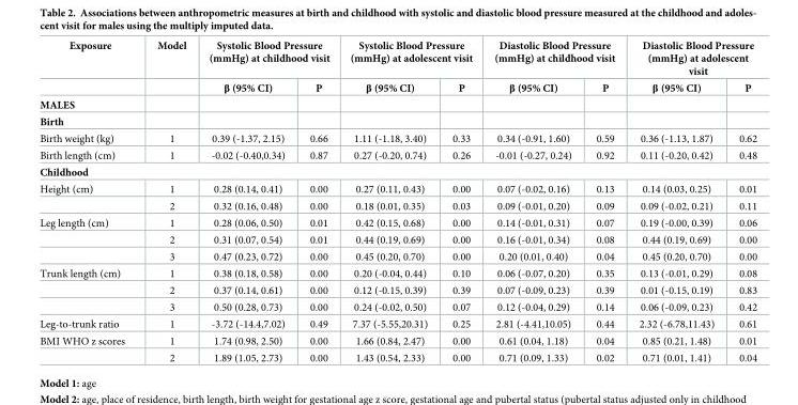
<table><thead><tr><td rowspan="2">Exposure</td><td rowspan="2">Model</td><td colspan="2">Systolic Blood Pressure (mmHg) at childhood visit</td><td colspan="2">Systolic Blood Pressure (mmHg) at adolescent visit</td><td colspan="2">Diastolic Blood Pressure (mmHg) at childhood visit</td><td colspan="2">Diastolic Blood Pressure (mmHg) at adolescent visit</td></tr><tr><td>β (95% CI)</td><td>P</td><td>β (95% CI)</td><td>P</td><td>β (95% CI)</td><td>P</td><td>β (95% CI)</td><td>P</td></tr></thead><tbody><tr><td colspan="10">MALES</td></tr><tr><td colspan="10">Birth</td></tr><tr><td>Birth weight (kg)</td><td>1</td><td>0.39 (-1.37, 2.15)</td><td>0.66</td><td>1.11 (-1.18, 3.40)</td><td>0.33</td><td>0.34 (-0.91, 1.60)</td><td>0.59</td><td>0.36 (-1.13, 1.87)</td><td>0.62</td></tr><tr><td>Birth length (cm)</td><td>1</td><td>-0.02 (-0.40,0.34)</td><td>0.87</td><td>0.27 (-0.20, 0.74)</td><td>0.26</td><td>-0.01 (-0.27, 0.24)</td><td>0.92</td><td>0.11 (-0.20, 0.42)</td><td>0.48</td></tr><tr><td colspan="10">Childhood</td></tr><tr><td rowspan="2">Height (cm)</td><td>1</td><td>0.28 (0.14, 0.41)</td><td>0.00</td><td>0.27 (0.11, 0.43)</td><td>0.00</td><td>0.07 (-0.02, 0.16)</td><td>0.13</td><td>0.14 (0.03, 0.25)</td><td>0.01</td></tr><tr><td>2</td><td>0.32 (0.16, 0.48)</td><td>0.00</td><td>0.18 (0.01, 0.35)</td><td>0.03</td><td>0.09 (-0.01, 0.20)</td><td>0.09</td><td>0.09 (-0.02, 0.21)</td><td>0.11</td></tr><tr><td rowspan="3">Leg length (cm)</td><td>1</td><td>0.28 (0.06, 0.50)</td><td>0.01</td><td>0.42 (0.15, 0.68)</td><td>0.00</td><td>0.14 (-0.01, 0.31)</td><td>0.07</td><td>0.19 (-0.00, 0.39)</td><td>0.06</td></tr><tr><td>2</td><td>0.31 (0.07, 0.54)</td><td>0.01</td><td>0.44 (0.19, 0.69)</td><td>0.00</td><td>0.16 (-0.01, 0.34)</td><td>0.08</td><td>0.44 (0.19, 0.69)</td><td>0.00</td></tr><tr><td>3</td><td>0.47 (0.23, 0.72)</td><td>0.00</td><td>0.45 (0.20, 0.70)</td><td>0.00</td><td>0.20 (0.01, 0.40)</td><td>0.04</td><td>0.45 (0.20, 0.70)</td><td>0.00</td></tr><tr><td rowspan="3">Trunk length (cm)</td><td>1</td><td>0.38 (0.18, 0.58)</td><td>0.00</td><td>0.20 (-0.04, 0.44)</td><td>0.10</td><td>0.06 (-0.07, 0.20)</td><td>0.35</td><td>0.13 (-0.01, 0.29)</td><td>0.08</td></tr><tr><td>2</td><td>0.37 (0.14, 0.61)</td><td>0.00</td><td>0.12 (-0.15, 0.39)</td><td>0.39</td><td>0.07 (-0.09, 0.23)</td><td>0.39</td><td>0.01 (-0.15, 0.19)</td><td>0.83</td></tr><tr><td>3</td><td>0.50 (0.28, 0.73)</td><td>0.00</td><td>0.24 (-0.02, 0.50)</td><td>0.07</td><td>0.12 (-0.04, 0.29)</td><td>0.14</td><td>0.06 (-0.09, 0.23)</td><td>0.42</td></tr><tr><td>Leg-to-trunk ratio</td><td>1</td><td>-3.72 (-14.4,7.02)</td><td>0.49</td><td>7.37 (-5.55,20.31)</td><td>0.25</td><td>2.81 (-4.41,10.05)</td><td>0.44</td><td>2.32 (-6.78,11.43)</td><td>0.61</td></tr><tr><td rowspan="2">BMI WHO z scores</td><td>1</td><td>1.74 (0.98, 2.50)</td><td>0.00</td><td>1.66 (0.84, 2.47)</td><td>0.00</td><td>0.61 (0.04, 1.18)</td><td>0.04</td><td>0.85 (0.21, 1.48)</td><td>0.01</td></tr><tr><td>2</td><td>1.89 (1.05, 2.73)</td><td>0.00</td><td>1.43 (0.54, 2.33)</td><td>0.00</td><td>0.71 (0.09, 1.33)</td><td>0.02</td><td>0.71 (0.01, 1.41)</td><td>0.04</td></tr></tbody></table>